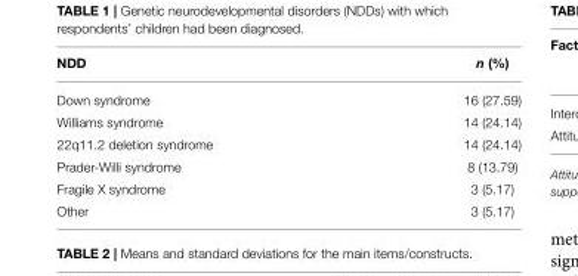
<table><thead><tr><td>NDD</td><td>n (%)</td></tr></thead><tbody><tr><td>Down syndrome</td><td>16 (27.59)</td></tr><tr><td>Williams syndrome</td><td>14 (24.14)</td></tr><tr><td>22q11.2 deletion syndrome</td><td>14 (24.14)</td></tr><tr><td>Prader-Willi syndrome</td><td>8 (13.79)</td></tr><tr><td>Fragile X syndrome</td><td>3 (5.17)</td></tr><tr><td>Other</td><td>3 (5.17)</td></tr></tbody></table>